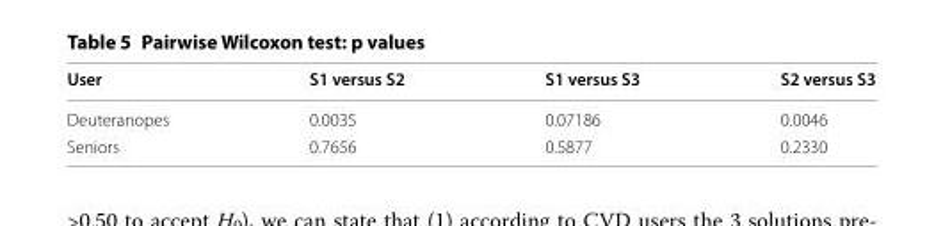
<table><thead><tr><td>User</td><td>S1 versus S2</td><td>S1 versus S3</td><td>S2 versus S3</td></tr></thead><tbody><tr><td>Deuteranopes</td><td>0.0035</td><td>0.07186</td><td>0.0046</td></tr><tr><td>Seniors</td><td>0.7656</td><td>0.5877</td><td>0.2330</td></tr></tbody></table>